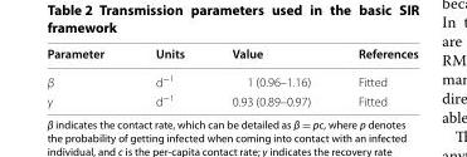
<table><thead><tr><td>Parameter</td><td>Units</td><td>Value</td><td>References</td></tr></thead><tbody><tr><td>β</td><td>d<sup>−1</sup></td><td>1 (0.96–1.16)</td><td>Fitted</td></tr><tr><td>γ</td><td>d<sup>−1</sup></td><td>0.93 (0.89–0.97)</td><td>Fitted</td></tr></tbody></table>